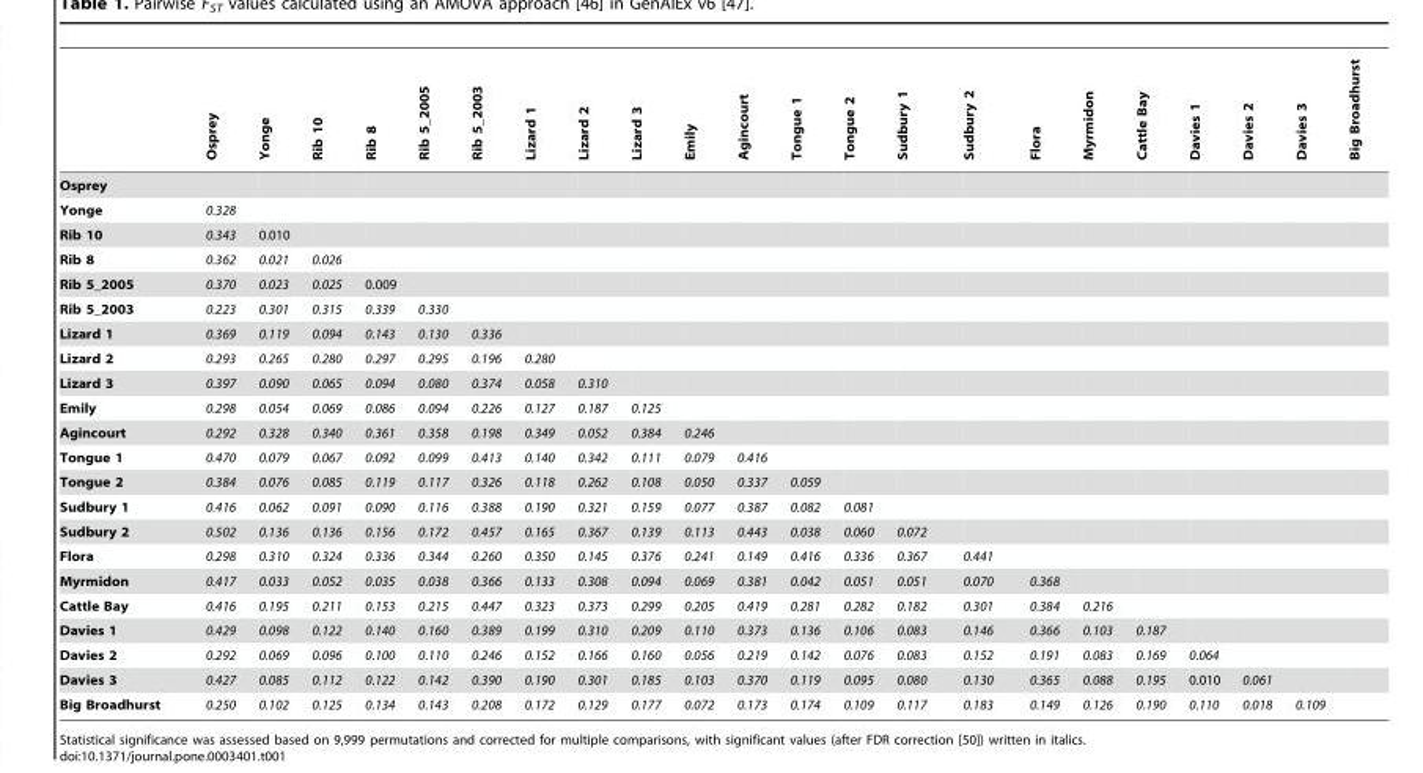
<table><thead><tr><td></td><td>Osprey</td><td>Yonge</td><td>Rib 10</td><td>Rib 8</td><td>Rib 5_2005</td><td>Rib 5_2003</td><td>Lizard 1</td><td>Lizard 2</td><td>Lizard 3</td><td>Emily</td><td>Agincourt</td><td>Tongue 1</td><td>Tongue 2</td><td>Sudbury 1</td><td>Sudbury 2</td><td>Flora</td><td>Myrmidon</td><td>Cattle Bay</td><td>Davies 1</td><td>Davies 2</td><td>Davies 3</td><td>Big Broadhurst</td></tr></thead><tbody><tr><td colspan="23">Osprey</td></tr><tr><td>Yonge</td><td>0.328</td><td></td><td></td><td></td><td></td><td></td><td></td><td></td><td></td><td></td><td></td><td></td><td></td><td></td><td></td><td></td><td></td><td></td><td></td><td></td><td></td><td></td></tr><tr><td>Rib 10</td><td>0.343</td><td>0.010</td><td></td><td></td><td></td><td></td><td></td><td></td><td></td><td></td><td></td><td></td><td></td><td></td><td></td><td></td><td></td><td></td><td></td><td></td><td></td><td></td></tr><tr><td>Rib 8</td><td>0.362</td><td>0.021</td><td>0.026</td><td></td><td></td><td></td><td></td><td></td><td></td><td></td><td></td><td></td><td></td><td></td><td></td><td></td><td></td><td></td><td></td><td></td><td></td><td></td></tr><tr><td>Rib 5_2005</td><td>0.370</td><td>0.023</td><td>0.025</td><td>0.009</td><td></td><td></td><td></td><td></td><td></td><td></td><td></td><td></td><td></td><td></td><td></td><td></td><td></td><td></td><td></td><td></td><td></td><td></td></tr><tr><td>Rib 5_2003</td><td>0.223</td><td>0.301</td><td>0.315</td><td>0.339</td><td>0.330</td><td></td><td></td><td></td><td></td><td></td><td></td><td></td><td></td><td></td><td></td><td></td><td></td><td></td><td></td><td></td><td></td><td></td></tr><tr><td>Lizard 1</td><td>0.369</td><td>0.119</td><td>0.094</td><td>0.143</td><td>0.130</td><td>0.336</td><td></td><td></td><td></td><td></td><td></td><td></td><td></td><td></td><td></td><td></td><td></td><td></td><td></td><td></td><td></td><td></td></tr><tr><td>Lizard 2</td><td>0.293</td><td>0.265</td><td>0.280</td><td>0.297</td><td>0.295</td><td>0.196</td><td>0.280</td><td></td><td></td><td></td><td></td><td></td><td></td><td></td><td></td><td></td><td></td><td></td><td></td><td></td><td></td><td></td></tr><tr><td>Lizard 3</td><td>0.397</td><td>0.090</td><td>0.065</td><td>0.094</td><td>0.080</td><td>0.374</td><td>0.058</td><td>0.310</td><td></td><td></td><td></td><td></td><td></td><td></td><td></td><td></td><td></td><td></td><td></td><td></td><td></td><td></td></tr><tr><td>Emily</td><td>0.298</td><td>0.054</td><td>0.069</td><td>0.086</td><td>0.094</td><td>0.226</td><td>0.127</td><td>0.187</td><td>0.125</td><td></td><td></td><td></td><td></td><td></td><td></td><td></td><td></td><td></td><td></td><td></td><td></td><td></td></tr><tr><td>Agincourt</td><td>0.292</td><td>0.328</td><td>0.340</td><td>0.361</td><td>0.358</td><td>0.198</td><td>0.349</td><td>0.052</td><td>0.384</td><td>0.246</td><td></td><td></td><td></td><td></td><td></td><td></td><td></td><td></td><td></td><td></td><td></td><td></td></tr><tr><td>Tongue 1</td><td>0.470</td><td>0.079</td><td>0.067</td><td>0.092</td><td>0.099</td><td>0.413</td><td>0.140</td><td>0.342</td><td>0.111</td><td>0.079</td><td>0.416</td><td></td><td></td><td></td><td></td><td></td><td></td><td></td><td></td><td></td><td></td><td></td></tr><tr><td>Tongue 2</td><td>0.384</td><td>0.076</td><td>0.085</td><td>0.119</td><td>0.117</td><td>0.326</td><td>0.118</td><td>0.262</td><td>0.108</td><td>0.050</td><td>0.337</td><td>0.059</td><td></td><td></td><td></td><td></td><td></td><td></td><td></td><td></td><td></td><td></td></tr><tr><td>Sudbury 1</td><td>0.416</td><td>0.062</td><td>0.091</td><td>0.090</td><td>0.116</td><td>0.388</td><td>0.190</td><td>0.321</td><td>0.159</td><td>0.077</td><td>0.387</td><td>0.082</td><td>0.081</td><td></td><td></td><td></td><td></td><td></td><td></td><td></td><td></td><td></td></tr><tr><td>Sudbury 2</td><td>0.502</td><td>0.136</td><td>0.136</td><td>0.156</td><td>0.172</td><td>0.457</td><td>0.165</td><td>0.367</td><td>0.139</td><td>0.113</td><td>0.443</td><td>0.038</td><td>0.060</td><td>0.072</td><td></td><td></td><td></td><td></td><td></td><td></td><td></td><td></td></tr><tr><td>Flora</td><td>0.298</td><td>0.310</td><td>0.324</td><td>0.336</td><td>0.344</td><td>0.260</td><td>0.350</td><td>0.145</td><td>0.376</td><td>0.241</td><td>0.149</td><td>0.416</td><td>0.336</td><td>0.367</td><td>0.441</td><td></td><td></td><td></td><td></td><td></td><td></td><td></td></tr><tr><td>Myrmidon</td><td>0.417</td><td>0.033</td><td>0.052</td><td>0.035</td><td>0.038</td><td>0.366</td><td>0.133</td><td>0.308</td><td>0.094</td><td>0.069</td><td>0.381</td><td>0.042</td><td>0.051</td><td>0.051</td><td>0.070</td><td>0.368</td><td></td><td></td><td></td><td></td><td></td><td></td></tr><tr><td>Cattle Bay</td><td>0.416</td><td>0.195</td><td>0.211</td><td>0.153</td><td>0.215</td><td>0.447</td><td>0.323</td><td>0.373</td><td>0.299</td><td>0.205</td><td>0.419</td><td>0.281</td><td>0.282</td><td>0.182</td><td>0.301</td><td>0.384</td><td>0.216</td><td></td><td></td><td></td><td></td><td></td></tr><tr><td>Davies 1</td><td>0.429</td><td>0.098</td><td>0.122</td><td>0.140</td><td>0.160</td><td>0.389</td><td>0.199</td><td>0.310</td><td>0.209</td><td>0.110</td><td>0.373</td><td>0.136</td><td>0.106</td><td>0.083</td><td>0.146</td><td>0.366</td><td>0.103</td><td>0.187</td><td></td><td></td><td></td><td></td></tr><tr><td>Davies 2</td><td>0.292</td><td>0.069</td><td>0.096</td><td>0.100</td><td>0.110</td><td>0.246</td><td>0.152</td><td>0.166</td><td>0.160</td><td>0.056</td><td>0.219</td><td>0.142</td><td>0.076</td><td>0.083</td><td>0.152</td><td>0.191</td><td>0.083</td><td>0.169</td><td>0.064</td><td></td><td></td><td></td></tr><tr><td>Davies 3</td><td>0.427</td><td>0.085</td><td>0.112</td><td>0.122</td><td>0.142</td><td>0.390</td><td>0.190</td><td>0.301</td><td>0.185</td><td>0.103</td><td>0.370</td><td>0.119</td><td>0.095</td><td>0.080</td><td>0.130</td><td>0.365</td><td>0.088</td><td>0.195</td><td>0.010</td><td>0.061</td><td></td><td></td></tr><tr><td>Big Broadhurst</td><td>0.250</td><td>0.102</td><td>0.125</td><td>0.134</td><td>0.143</td><td>0.208</td><td>0.172</td><td>0.129</td><td>0.177</td><td>0.072</td><td>0.173</td><td>0.174</td><td>0.109</td><td>0.117</td><td>0.183</td><td>0.149</td><td>0.126</td><td>0.190</td><td>0.110</td><td>0.018</td><td>0.109</td><td></td></tr></tbody></table>